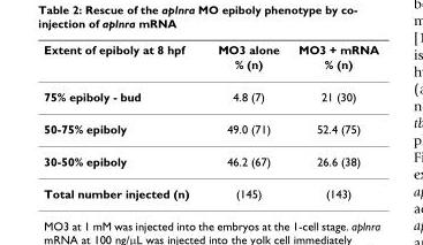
<table><thead><tr><td rowspan="2">Extent of epiboly at 8 hpf</td><td rowspan="2">MO3 alone % (n)</td><td rowspan="2">MO3 + mRNA % (n)</td></tr><tr></tr></thead><tbody><tr><td>75% epiboly - bud</td><td>4.8 (7)</td><td>21 (30)</td></tr><tr><td>50-75% epiboly</td><td>49.0 (71)</td><td>52.4 (75)</td></tr><tr><td>30-50% epiboly</td><td>46.2 (67)</td><td>26.6 (38)</td></tr><tr><td>Total number injected (n)</td><td>(145)</td><td>(143)</td></tr></tbody></table>